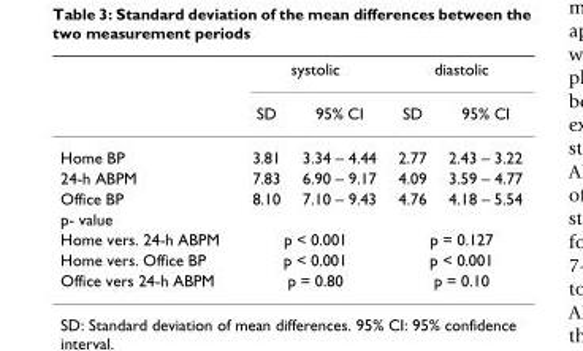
<table><thead><tr><td rowspan="2"></td><td colspan="2">systolic</td><td colspan="2">diastolic</td></tr><tr><td>SD</td><td>95% CI</td><td>SD</td><td>95% CI</td></tr></thead><tbody><tr><td>Home BP</td><td>3.81</td><td>3.34 – 4.44</td><td>2.77</td><td>2.43 – 3.22</td></tr><tr><td>24-h ABPM</td><td>7.83</td><td>6.90 – 9.17</td><td>4.09</td><td>3.59 – 4.77</td></tr><tr><td>Office BP</td><td>8.10</td><td>7.10 – 9.43</td><td>4.76</td><td>4.18 – 5.54</td></tr><tr><td colspan="5">p- value</td></tr><tr><td>Home vers. 24-h ABPM</td><td colspan="2">p &lt; 0.001</td><td colspan="2">p = 0.127</td></tr><tr><td>Home vers. Office BP</td><td colspan="2">p &lt; 0.001</td><td colspan="2">p &lt; 0.001</td></tr><tr><td>Office vers 24-h ABPM</td><td colspan="2">p = 0.80</td><td colspan="2">p = 0.10</td></tr></tbody></table>